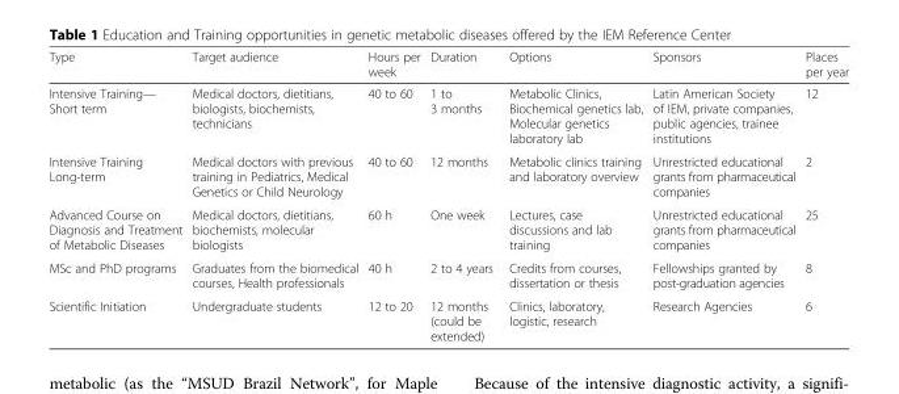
<table><thead><tr><td>Type</td><td>Target audience</td><td>Hours per week</td><td>Duration</td><td>Options</td><td>Sponsors</td><td>Places per year</td></tr></thead><tbody><tr><td>Intensive Training— Short term</td><td>Medical doctors, dietitians, biologists, biochemists, technicians</td><td>40 to 60</td><td>1 to 3 months</td><td>Metabolic Clinics, Biochemical genetics lab, Molecular genetics laboratory lab</td><td>Latin American Society of IEM, private companies, public agencies, trainee institutions</td><td>12</td></tr><tr><td>Intensive Training Long-term</td><td>Medical doctors with previous training in Pediatrics, Medical Genetics or Child Neurology</td><td>40 to 60</td><td>12 months</td><td>Metabolic clinics training and laboratory overview</td><td>Unrestricted educational grants from pharmaceutical companies</td><td>2</td></tr><tr><td>Advanced Course on Diagnosis and Treatment of Metabolic Diseases</td><td>Medical doctors, dietitians, biochemists, molecular biologists</td><td>60 h</td><td>One week</td><td>Lectures, case discussions and lab training</td><td>Unrestricted educational grants from pharmaceutical companies</td><td>25</td></tr><tr><td>MSc and PhD programs</td><td>Graduates from the biomedical courses, Health professionals</td><td>40 h</td><td>2 to 4 years</td><td>Credits from courses, dissertation or thesis</td><td>Fellowships granted by post-graduation agencies</td><td>8</td></tr><tr><td>Scientific Initiation</td><td>Undergraduate students</td><td>12 to 20</td><td>12 months (could be extended)</td><td>Clinics, laboratory, logistic, research</td><td>Research Agencies</td><td>6</td></tr></tbody></table>